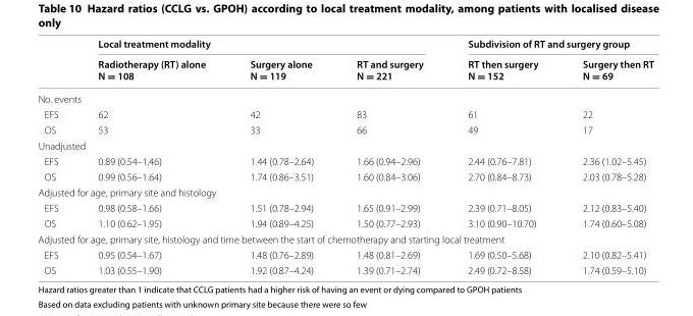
<table><thead><tr><td rowspan="2"></td><td colspan="3">Local treatment modality</td><td colspan="2">Subdivision of RT and surgery group</td></tr><tr><td>Radiotherapy (RT) alone N = 108</td><td>Surgery alone N = 119</td><td>RT and surgery N = 221</td><td>RT then surgery N = 152</td><td>Surgery then RT N = 69</td></tr></thead><tbody><tr><td colspan="6">No. events</td></tr><tr><td>EFS</td><td>62</td><td>42</td><td>83</td><td>61</td><td>22</td></tr><tr><td>OS</td><td>53</td><td>33</td><td>66</td><td>49</td><td>17</td></tr><tr><td colspan="6">Unadjusted</td></tr><tr><td>EFS</td><td>0.89 (0.54–1.46)</td><td>1.44 (0.78–2.64)</td><td>1.66 (0.94–2.96)</td><td>2.44 (0.76–7.81)</td><td>2.36 (1.02–5.45)</td></tr><tr><td>OS</td><td>0.99 (0.56–1.64)</td><td>1.74 (0.86–3.51)</td><td>1.60 (0.84–3.06)</td><td>2.70 (0.84–8.73)</td><td>2.03 (0.78–5.28)</td></tr><tr><td colspan="6">Adjusted for age, primary site and histology</td></tr><tr><td>EFS</td><td>0.98 (0.58–1.66)</td><td>1.51 (0.78–2.94)</td><td>1.65 (0.91–2.99)</td><td>2.39 (0.71–8.05)</td><td>2.12 (0.83–5.40)</td></tr><tr><td>OS</td><td>1.10 (0.62–1.95)</td><td>1.94 (0.89–4.25)</td><td>1.50 (0.77–2.93)</td><td>3.10 (0.90–10.70)</td><td>1.74 (0.60–5.08)</td></tr><tr><td colspan="6">Adjusted for age, primary site, histology and time between the start of chemotherapy and starting local treatment</td></tr><tr><td>EFS</td><td>0.95 (0.54–1.67)</td><td>1.48 (0.76–2.89)</td><td>1.48 (0.81–2.69)</td><td>1.69 (0.50–5.68)</td><td>2.10 (0.82–5.41)</td></tr><tr><td>OS</td><td>1.03 (0.55–1.90)</td><td>1.92 (0.87–4.24)</td><td>1.39 (0.71–2.74)</td><td>2.49 (0.72–8.58)</td><td>1.74 (0.59–5.10)</td></tr></tbody></table>